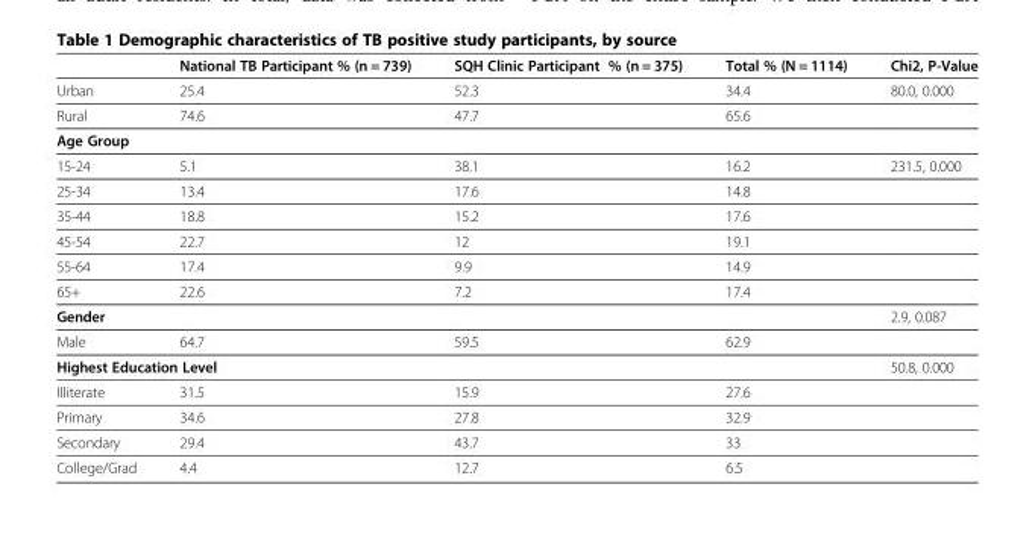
<table><thead><tr><td></td><td>National TB Participant % (n = 739)</td><td>SQH Clinic Participant % (n = 375)</td><td>Total % (N = 1114)</td><td>Chi2, P-Value</td></tr></thead><tbody><tr><td>Urban</td><td>25.4</td><td>52.3</td><td>34.4</td><td>80.0, 0.000</td></tr><tr><td>Rural</td><td>74.6</td><td>47.7</td><td>65.6</td><td></td></tr><tr><td colspan="5">Age Group</td></tr><tr><td>15-24</td><td>5.1</td><td>38.1</td><td>16.2</td><td>231.5, 0.000</td></tr><tr><td>25-34</td><td>13.4</td><td>17.6</td><td>14.8</td><td></td></tr><tr><td>35-44</td><td>18.8</td><td>15.2</td><td>17.6</td><td></td></tr><tr><td>45-54</td><td>22.7</td><td>12</td><td>19.1</td><td></td></tr><tr><td>55-64</td><td>17.4</td><td>9.9</td><td>14.9</td><td></td></tr><tr><td>65+</td><td>22.6</td><td>7.2</td><td>17.4</td><td></td></tr><tr><td>Gender</td><td></td><td></td><td></td><td>2.9, 0.087</td></tr><tr><td>Male</td><td>64.7</td><td>59.5</td><td>62.9</td><td></td></tr><tr><td colspan="2">Highest Education Level</td><td></td><td></td><td>50.8, 0.000</td></tr><tr><td>Illiterate</td><td>31.5</td><td>15.9</td><td>27.6</td><td></td></tr><tr><td>Primary</td><td>34.6</td><td>27.8</td><td>32.9</td><td></td></tr><tr><td>Secondary</td><td>29.4</td><td>43.7</td><td>33</td><td></td></tr><tr><td>College/Grad</td><td>4.4</td><td>12.7</td><td>6.5</td><td></td></tr></tbody></table>